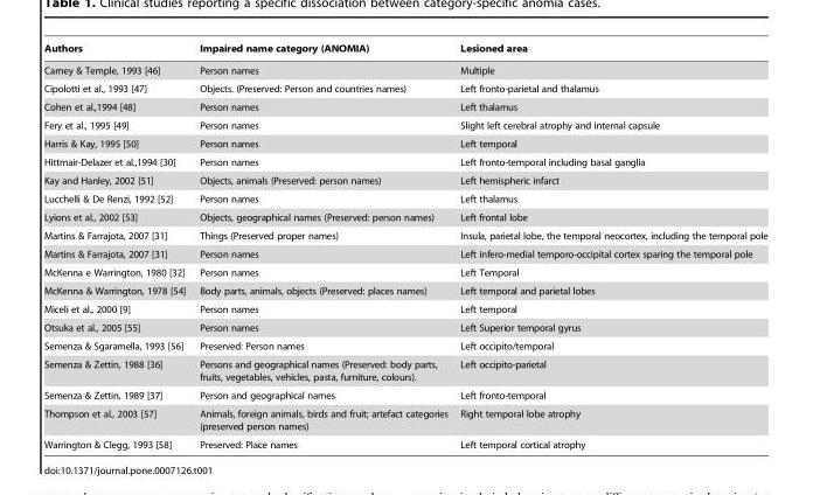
<table><thead><tr><td>Authors</td><td>Impaired name category (ANOMIA)</td><td>Lesioned area</td></tr></thead><tbody><tr><td>Carney &amp; Temple, 1993 [46]</td><td>Person names</td><td>Multiple</td></tr><tr><td>Cipolotti et al., 1993 [47]</td><td>Objects. (Preserved: Person and countries names)</td><td>Left fronto-parietal and thalamus</td></tr><tr><td>Cohen et al.,1994 [48]</td><td>Person names</td><td>Left thalamus</td></tr><tr><td>Fery et al., 1995 [49]</td><td>Person names</td><td>Slight left cerebral atrophy and internal capsule</td></tr><tr><td>Harris &amp; Kay, 1995 [50]</td><td>Person names</td><td>Left temporal</td></tr><tr><td>Hittmair-Delazer et al.,1994 [30]</td><td>Person names</td><td>Left fronto-temporal including basal ganglia</td></tr><tr><td>Kay and Hanley, 2002 [51]</td><td>Objects, animals (Preserved: person names)</td><td>Left hemispheric infarct</td></tr><tr><td>Lucchelli &amp; De Renzi, 1992 [52]</td><td>Person names</td><td>Left thalamus</td></tr><tr><td>Lyions et al., 2002 [53]</td><td>Objects, geographical names (Preserved: person names)</td><td>Left frontal lobe</td></tr><tr><td>Martins &amp; Farrajota, 2007 [31]</td><td>Things (Preserved proper names)</td><td>Insula, parietal lobe, the temporal neocortex, including the temporal pole</td></tr><tr><td>Martins &amp; Farrajota, 2007 [31]</td><td>Person names</td><td>Left infero-medial temporo-occipital cortex sparing the temporal pole</td></tr><tr><td>McKenna e Warrington, 1980 [32]</td><td>Person names</td><td>Left Temporal</td></tr><tr><td>McKenna &amp; Warrington, 1978 [54]</td><td>Body parts, animals, objects (Preserved: places names)</td><td>Left temporal and parietal lobes</td></tr><tr><td>Miceli et al., 2000 [9]</td><td>Person names</td><td>Left temporal</td></tr><tr><td>Otsuka et al., 2005 [55]</td><td>Person names</td><td>Left Superior temporal gyrus</td></tr><tr><td>Semenza &amp; Sgaramella, 1993 [56]</td><td>Preserved: Person names</td><td>Left occipito/temporal</td></tr><tr><td>Semenza &amp; Zettin, 1988 [36]</td><td>Persons and geographical names (Preserved: body parts, fruits, vegetables, vehicles, pasta, furniture, colours).</td><td>Left occipito-parietal</td></tr><tr><td>Semenza &amp; Zettin, 1989 [37]</td><td>Person and geographical names</td><td>Left fronto-temporal</td></tr><tr><td>Thompson et al., 2003 [57]</td><td>Animals, foreign animals, birds and fruit; artefact categories (preserved person names)</td><td>Right temporal lobe atrophy</td></tr><tr><td>Warrington &amp; Clegg, 1993 [58]</td><td>Preserved: Place names</td><td>Left temporal cortical atrophy</td></tr></tbody></table>